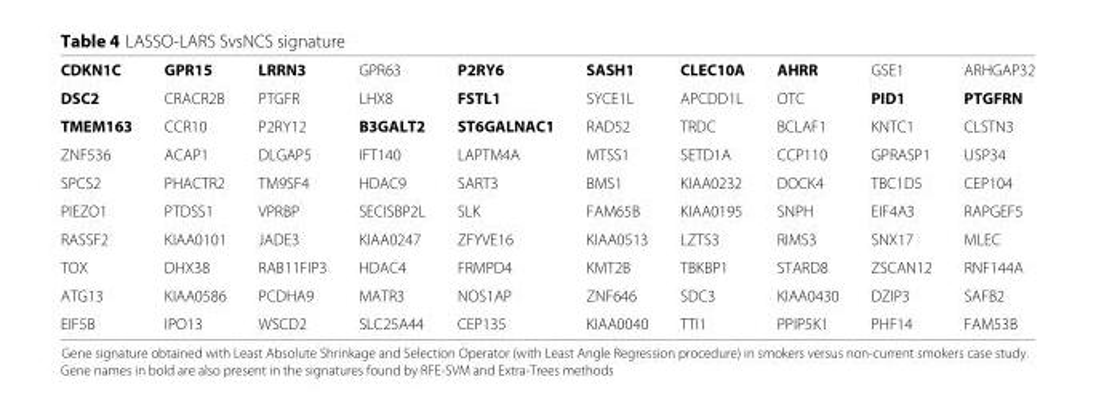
<table><tbody><tr><td>CDKN1C</td><td>GPR15</td><td>LRRN3</td><td>GPR63</td><td>P2RY6</td><td>SASH1</td><td>CLEC10A</td><td>AHRR</td><td>GSE1</td><td>ARHGAP32</td></tr><tr><td>DSC2</td><td>CRACR2B</td><td>PTGFR</td><td>LHX8</td><td>FSTL1</td><td>SYCE1L</td><td>APCDD1L</td><td>OTC</td><td>PID1</td><td>PTGFRN</td></tr><tr><td>TMEM163</td><td>CCR10</td><td>P2RY12</td><td>B3GALT2</td><td>ST6GALNAC1</td><td>RAD52</td><td>TRDC</td><td>BCLAF1</td><td>KNTC1</td><td>CLSTN3</td></tr><tr><td>ZNF536</td><td>ACAP1</td><td>DLGAP5</td><td>IFT140</td><td>LAPTM4A</td><td>MTSS1</td><td>SETD1A</td><td>CCP110</td><td>GPRASP1</td><td>USP34</td></tr><tr><td>SPCS2</td><td>PHACTR2</td><td>TM9SF4</td><td>HDAC9</td><td>SART3</td><td>BMS1</td><td>KIAA0232</td><td>DOCK4</td><td>TBC1D5</td><td>CEP104</td></tr><tr><td>PIEZO1</td><td>PTDSS1</td><td>VPRBP</td><td>SECISBP2L</td><td>SLK</td><td>FAM65B</td><td>KIAA0195</td><td>SNPH</td><td>EIF4A3</td><td>RAPGEF5</td></tr><tr><td>RASSF2</td><td>KIAA0101</td><td>JADE3</td><td>KIAA0247</td><td>ZFYVE16</td><td>KIAA0513</td><td>LZTS3</td><td>RIMS3</td><td>SNX17</td><td>MLEC</td></tr><tr><td>TOX</td><td>DHX38</td><td>RAB11FIP3</td><td>HDAC4</td><td>FRMPD4</td><td>KMT2B</td><td>TBKBP1</td><td>STARD8</td><td>ZSCAN12</td><td>RNF144A</td></tr><tr><td>ATG13</td><td>KIAA0586</td><td>PCDHA9</td><td>MATR3</td><td>NOS1AP</td><td>ZNF646</td><td>SDC3</td><td>KIAA0430</td><td>DZIP3</td><td>SAFB2</td></tr><tr><td>EIF5B</td><td>IPO13</td><td>WSCD2</td><td>SLC25A44</td><td>CEP135</td><td>KIAA0040</td><td>TTI1</td><td>PPIP5K1</td><td>PHF14</td><td>FAM53B</td></tr></tbody></table>